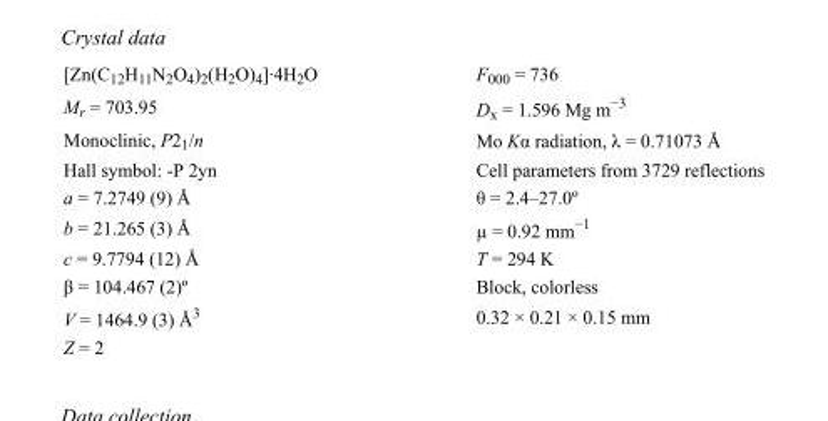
<table><tbody><tr><td>[Zn(C<sub>12</sub>H<sub>11</sub>N<sub>2</sub>O<sub>4</sub>)<sub>2</sub>(H<sub>2</sub>O)<sub>4</sub>]·4H<sub>2</sub>O</td><td>F000 = 736</td></tr><tr><td>M<sub>r</sub> = 703.95</td><td>D<sub>x</sub> = 1.596 Mg m<sup>−3</sup></td></tr><tr><td>Monoclinic, P2<sub>1</sub>/n</td><td>Mo Kα radiation, λ = 0.71073 Å</td></tr><tr><td>Hall symbol: -P 2yn</td><td>Cell parameters from 3729 reflections</td></tr><tr><td>a = 7.2749 (9) Å</td><td>θ = 2.4–27.0º</td></tr><tr><td>b = 21.265 (3) Å</td><td>µ = 0.92 mm<sup>−1</sup></td></tr><tr><td>c = 9.7794 (12) Å</td><td>T = 294 K</td></tr><tr><td>β = 104.467 (2)º</td><td>Block, colorless</td></tr><tr><td>V = 1464.9 (3) Å<sup>3</sup></td><td>0.32 × 0.21 × 0.15 mm</td></tr><tr><td>Z = 2</td><td></td></tr></tbody></table>